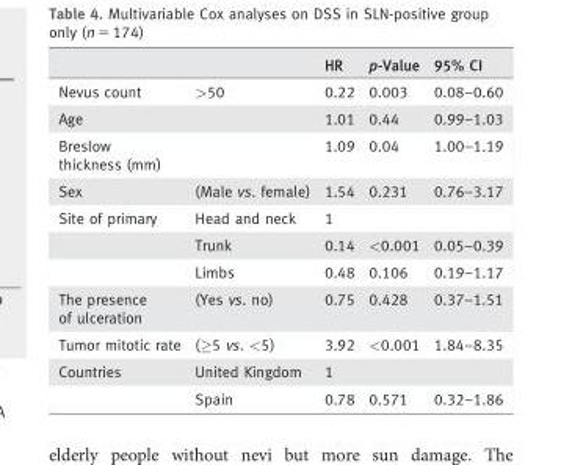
<table><thead><tr><td></td><td></td><td>HR</td><td>p-Value</td><td>95% CI</td></tr></thead><tbody><tr><td>Nevus count</td><td>&gt;50</td><td>0.22</td><td>0.003</td><td>0.08–0.60</td></tr><tr><td>Age</td><td></td><td>1.01</td><td>0.44</td><td>0.99–1.03</td></tr><tr><td>Breslow thickness (mm)</td><td></td><td>1.09</td><td>0.04</td><td>1.00–1.19</td></tr><tr><td>Sex</td><td>(Male vs. female)</td><td>1.54</td><td>0.231</td><td>0.76–3.17</td></tr><tr><td rowspan="3">Site of primary</td><td>Head and neck</td><td>1</td><td></td><td></td></tr><tr><td>Trunk</td><td>0.14</td><td>&lt;0.001</td><td>0.05–0.39</td></tr><tr><td>Limbs</td><td>0.48</td><td>0.106</td><td>0.19–1.17</td></tr><tr><td>The presence of ulceration</td><td>(Yes vs. no)</td><td>0.75</td><td>0.428</td><td>0.37–1.51</td></tr><tr><td>Tumor mitotic rate</td><td>(≥5 vs. &lt;5)</td><td>3.92</td><td>&lt;0.001</td><td>1.84–8.35</td></tr><tr><td rowspan="2">Countries</td><td>United Kingdom</td><td>1</td><td></td><td></td></tr><tr><td>Spain</td><td>0.78</td><td>0.571</td><td>0.32–1.86</td></tr></tbody></table>